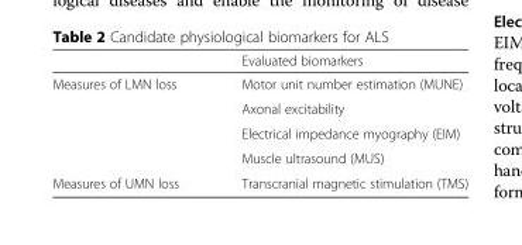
<table><thead><tr><td></td><td>Evaluated biomarkers</td></tr></thead><tbody><tr><td rowspan="4">Measures of LMN loss</td><td>Motor unit number estimation (MUNE)</td></tr><tr><td>Axonal excitability</td></tr><tr><td>Electrical impedance myography (EIM)</td></tr><tr><td>Muscle ultrasound (MUS)</td></tr><tr><td>Measures of UMN loss</td><td>Transcranial magnetic stimulation (TMS)</td></tr></tbody></table>